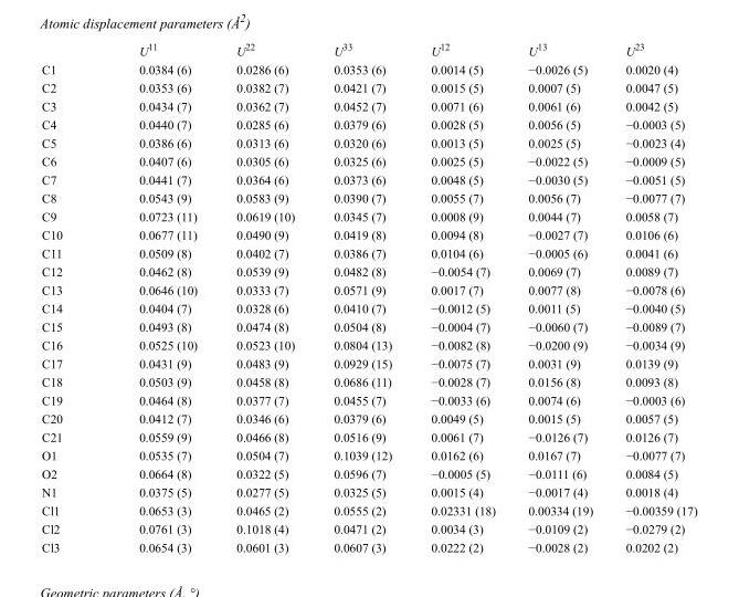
<table><thead><tr><td></td><td>U<sup>11</sup></td><td>U<sup>22</sup></td><td>U<sup>33</sup></td><td>U<sup>12</sup></td><td>U<sup>13</sup></td><td>U<sup>23</sup></td></tr></thead><tbody><tr><td>C1</td><td>0.0384 (6)</td><td>0.0286 (6)</td><td>0.0353 (6)</td><td>0.0014 (5)</td><td>−0.0026 (5)</td><td>0.0020 (4)</td></tr><tr><td>C2</td><td>0.0353 (6)</td><td>0.0382 (7)</td><td>0.0421 (7)</td><td>0.0015 (5)</td><td>0.0007 (5)</td><td>0.0047 (5)</td></tr><tr><td>C3</td><td>0.0434 (7)</td><td>0.0362 (7)</td><td>0.0452 (7)</td><td>0.0071 (6)</td><td>0.0061 (6)</td><td>0.0042 (5)</td></tr><tr><td>C4</td><td>0.0440 (7)</td><td>0.0285 (6)</td><td>0.0379 (6)</td><td>0.0028 (5)</td><td>0.0056 (5)</td><td>−0.0003 (5)</td></tr><tr><td>C5</td><td>0.0386 (6)</td><td>0.0313 (6)</td><td>0.0320 (6)</td><td>0.0013 (5)</td><td>0.0025 (5)</td><td>−0.0023 (4)</td></tr><tr><td>C6</td><td>0.0407 (6)</td><td>0.0305 (6)</td><td>0.0325 (6)</td><td>0.0025 (5)</td><td>−0.0022 (5)</td><td>−0.0009 (5)</td></tr><tr><td>C7</td><td>0.0441 (7)</td><td>0.0364 (6)</td><td>0.0373 (6)</td><td>0.0048 (5)</td><td>−0.0030 (5)</td><td>−0.0051 (5)</td></tr><tr><td>C8</td><td>0.0543 (9)</td><td>0.0583 (9)</td><td>0.0390 (7)</td><td>0.0055 (7)</td><td>0.0056 (7)</td><td>−0.0077 (7)</td></tr><tr><td>C9</td><td>0.0723 (11)</td><td>0.0619 (10)</td><td>0.0345 (7)</td><td>0.0008 (9)</td><td>0.0044 (7)</td><td>0.0058 (7)</td></tr><tr><td>C10</td><td>0.0677 (11)</td><td>0.0490 (9)</td><td>0.0419 (8)</td><td>0.0094 (8)</td><td>−0.0027 (7)</td><td>0.0106 (6)</td></tr><tr><td>C11</td><td>0.0509 (8)</td><td>0.0402 (7)</td><td>0.0386 (7)</td><td>0.0104 (6)</td><td>−0.0005 (6)</td><td>0.0041 (6)</td></tr><tr><td>C12</td><td>0.0462 (8)</td><td>0.0539 (9)</td><td>0.0482 (8)</td><td>−0.0054 (7)</td><td>0.0069 (7)</td><td>0.0089 (7)</td></tr><tr><td>C13</td><td>0.0646 (10)</td><td>0.0333 (7)</td><td>0.0571 (9)</td><td>0.0017 (7)</td><td>0.0077 (8)</td><td>−0.0078 (6)</td></tr><tr><td>C14</td><td>0.0404 (7)</td><td>0.0328 (6)</td><td>0.0410 (7)</td><td>−0.0012 (5)</td><td>0.0011 (5)</td><td>−0.0040 (5)</td></tr><tr><td>C15</td><td>0.0493 (8)</td><td>0.0474 (8)</td><td>0.0504 (8)</td><td>−0.0004 (7)</td><td>−0.0060 (7)</td><td>−0.0089 (7)</td></tr><tr><td>C16</td><td>0.0525 (10)</td><td>0.0523 (10)</td><td>0.0804 (13)</td><td>−0.0082 (8)</td><td>−0.0200 (9)</td><td>−0.0034 (9)</td></tr><tr><td>C17</td><td>0.0431 (9)</td><td>0.0483 (9)</td><td>0.0929 (15)</td><td>−0.0075 (7)</td><td>0.0031 (9)</td><td>0.0139 (9)</td></tr><tr><td>C18</td><td>0.0503 (9)</td><td>0.0458 (8)</td><td>0.0686 (11)</td><td>−0.0028 (7)</td><td>0.0156 (8)</td><td>0.0093 (8)</td></tr><tr><td>C19</td><td>0.0464 (8)</td><td>0.0377 (7)</td><td>0.0455 (7)</td><td>−0.0033 (6)</td><td>0.0074 (6)</td><td>−0.0003 (6)</td></tr><tr><td>C20</td><td>0.0412 (7)</td><td>0.0346 (6)</td><td>0.0379 (6)</td><td>0.0049 (5)</td><td>0.0015 (5)</td><td>0.0057 (5)</td></tr><tr><td>C21</td><td>0.0559 (9)</td><td>0.0466 (8)</td><td>0.0516 (9)</td><td>0.0061 (7)</td><td>−0.0126 (7)</td><td>0.0126 (7)</td></tr><tr><td>O1</td><td>0.0535 (7)</td><td>0.0504 (7)</td><td>0.1039 (12)</td><td>0.0162 (6)</td><td>0.0167 (7)</td><td>−0.0077 (7)</td></tr><tr><td>O2</td><td>0.0664 (8)</td><td>0.0322 (5)</td><td>0.0596 (7)</td><td>−0.0005 (5)</td><td>−0.0111 (6)</td><td>0.0084 (5)</td></tr><tr><td>N1</td><td>0.0375 (5)</td><td>0.0277 (5)</td><td>0.0325 (5)</td><td>0.0015 (4)</td><td>−0.0017 (4)</td><td>0.0018 (4)</td></tr><tr><td>Cl1</td><td>0.0653 (3)</td><td>0.0465 (2)</td><td>0.0555 (2)</td><td>0.02331 (18)</td><td>0.00334 (19)</td><td>−0.00359 (17)</td></tr><tr><td>Cl2</td><td>0.0761 (3)</td><td>0.1018 (4)</td><td>0.0471 (2)</td><td>0.0034 (3)</td><td>−0.0109 (2)</td><td>−0.0279 (2)</td></tr><tr><td>Cl3</td><td>0.0654 (3)</td><td>0.0601 (3)</td><td>0.0607 (3)</td><td>0.0222 (2)</td><td>−0.0028 (2)</td><td>0.0202 (2)</td></tr></tbody></table>